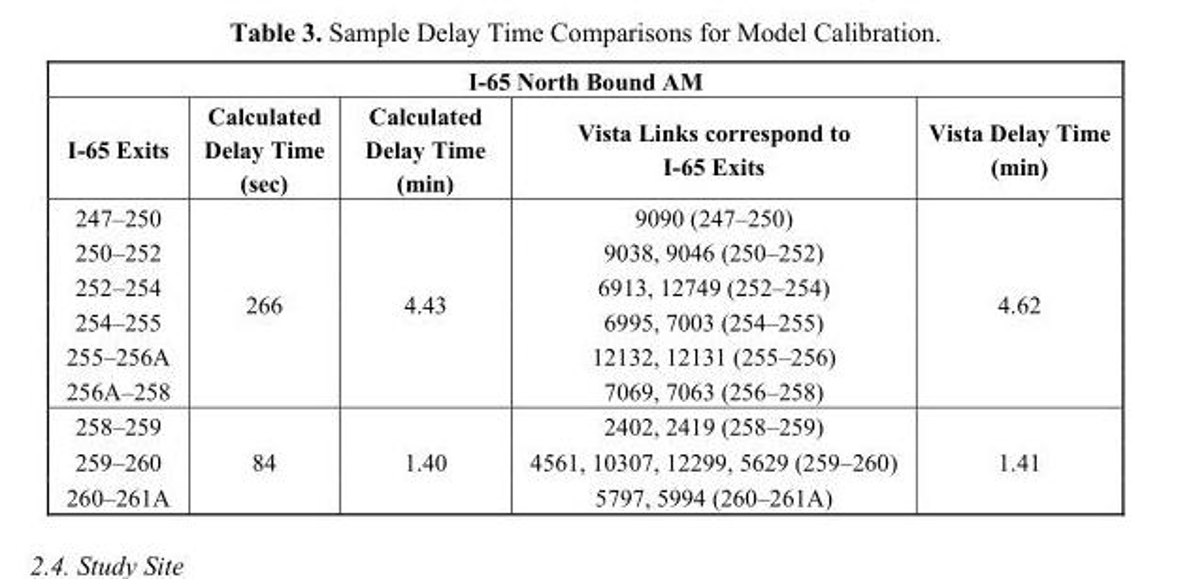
<table><thead><tr><td colspan="5">I-65 North Bound AM</td></tr><tr><td>I-65 Exits</td><td>Calculated Delay Time (sec)</td><td>Calculated Delay Time (min)</td><td>Vista Links correspond to I-65 Exits</td><td>Vista Delay Time (min)</td></tr></thead><tbody><tr><td>247–250</td><td rowspan="6">266</td><td rowspan="6">4.43</td><td>9090 (247–250)</td><td rowspan="6">4.62</td></tr><tr><td>250–252</td><td>9038, 9046 (250–252)</td></tr><tr><td>252–254</td><td>6913, 12749 (252–254)</td></tr><tr><td>254–255</td><td>6995, 7003 (254–255)</td></tr><tr><td>255–256A</td><td>12132, 12131 (255–256)</td></tr><tr><td>256A–258</td><td>7069, 7063 (256–258)</td></tr><tr><td>258–259</td><td rowspan="3">84</td><td rowspan="3">1.40</td><td>2402, 2419 (258–259)</td><td rowspan="3">1.41</td></tr><tr><td>259–260</td><td>4561, 10307, 12299, 5629 (259–260)</td></tr><tr><td>260–261A</td><td>5797, 5994 (260–261A)</td></tr></tbody></table>